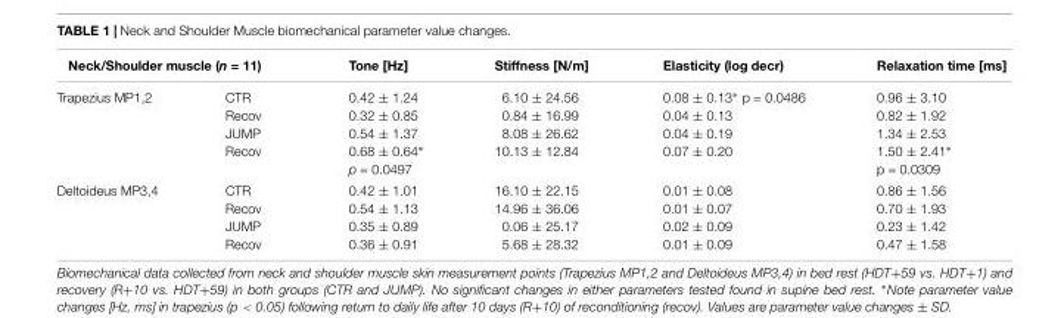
<table><thead><tr><td colspan="2">Neck/Shoulder muscle (n = 11)</td><td rowspan="2">Tone [Hz] 0.42 ± 1.24 0.32 ± 0.85 0.54 ± 1.37 0.68 ± 0.64∗ p = 0.0497</td><td rowspan="2">Stiffness [N/m] 6.10 ± 24.56 0.84 ± 16.99 8.08 ± 26.62 10.13 ± 12.84</td><td rowspan="2">Elasticity (log decr) 0.08 ± 0.13∗ p = 0.0486 0.04 ± 0.13 0.04 ± 0.19 0.07 ± 0.20</td><td rowspan="2">Relaxation time [ms] 0.96 ± 3.10 0.82 ± 1.92 1.34 ± 2.53 1.50 ± 2.41∗ p = 0.0309</td></tr><tr><td>Trapezius MP1,2</td><td>CTR Recov JUMP Recov</td></tr></thead><tbody><tr><td>Deltoideus MP3,4</td><td>CTR Recov JUMP Recov</td><td>0.42 ± 1.01 0.54 ± 1.13 0.35 ± 0.89 0.36 ± 0.91</td><td>16.10 ± 22.15 14.96 ± 36.06 0.06 ± 25.17 5.68 ± 28.32</td><td>0.01 ± 0.08 0.01 ± 0.07 0.02 ± 0.09 0.01 ± 0.09</td><td>0.86 ± 1.56 0.70 ± 1.93 0.23 ± 1.42 0.47 ± 1.58</td></tr></tbody></table>